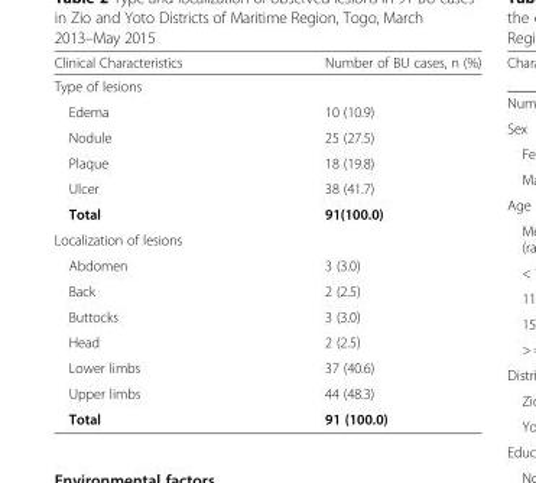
<table><thead><tr><td>Clinical Characteristics</td><td>Number of BU cases, n (%)</td></tr></thead><tbody><tr><td colspan="2">Type of lesions</td></tr><tr><td>Edema</td><td>10 (10.9)</td></tr><tr><td>Nodule</td><td>25 (27.5)</td></tr><tr><td>Plaque</td><td>18 (19.8)</td></tr><tr><td>Ulcer</td><td>38 (41.7)</td></tr><tr><td>Total</td><td>91(100.0)</td></tr><tr><td colspan="2">Localization of lesions</td></tr><tr><td>Abdomen</td><td>3 (3.0)</td></tr><tr><td>Back</td><td>2 (2.5)</td></tr><tr><td>Buttocks</td><td>3 (3.0)</td></tr><tr><td>Head</td><td>2 (2.5)</td></tr><tr><td>Lower limbs</td><td>37 (40.6)</td></tr><tr><td>Upper limbs</td><td>44 (48.3)</td></tr><tr><td>Total</td><td>91 (100.0)</td></tr></tbody></table>